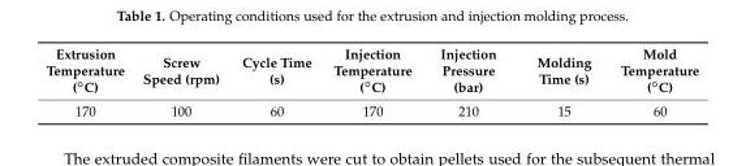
<table><thead><tr><td>Extrusion Temperature (◦C)</td><td>Screw Speed (rpm)</td><td>Cycle Time (s)</td><td>Injection Temperature (◦C)</td><td>Injection Pressure (bar)</td><td>Molding Time (s)</td><td>Mold Temperature (◦C)</td></tr></thead><tbody><tr><td>170</td><td>100</td><td>60</td><td>170</td><td>210</td><td>15</td><td>60</td></tr></tbody></table>